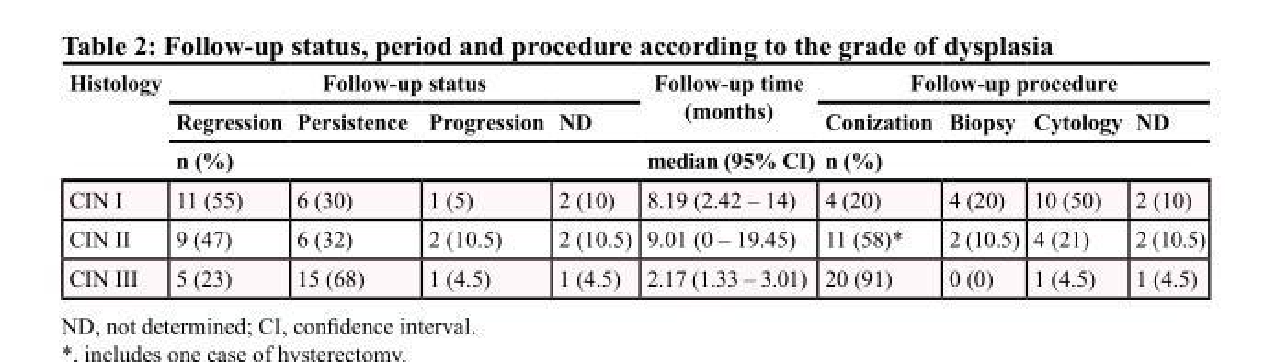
<table><thead><tr><td rowspan="3">Histology</td><td colspan="4">Follow-up status</td><td rowspan="3">Follow-up time (months) median (95% CI)</td><td colspan="4">Follow-up procedure</td></tr><tr><td>Regression</td><td>Persistence</td><td>Progression</td><td>ND</td><td>Conization</td><td>Biopsy</td><td>Cytology</td><td>ND</td></tr><tr><td colspan="4">n (%)</td><td colspan="4">n (%)</td></tr></thead><tbody><tr><td>CIN I</td><td>11 (55)</td><td>6 (30)</td><td>1 (5)</td><td>2 (10)</td><td>8.19 (2.42 – 14)</td><td>4 (20)</td><td>4 (20)</td><td>10 (50)</td><td>2 (10)</td></tr><tr><td>CIN II</td><td>9 (47)</td><td>6 (32)</td><td>2 (10.5)</td><td>2 (10.5)</td><td>9.01 (0 – 19.45)</td><td>11 (58)*</td><td>2 (10.5)</td><td>4 (21)</td><td>2 (10.5)</td></tr><tr><td>CIN III</td><td>5 (23)</td><td>15 (68)</td><td>1 (4.5)</td><td>1 (4.5)</td><td>2.17 (1.33 – 3.01)</td><td>20 (91)</td><td>0 (0)</td><td>1 (4.5)</td><td>1 (4.5)</td></tr></tbody></table>